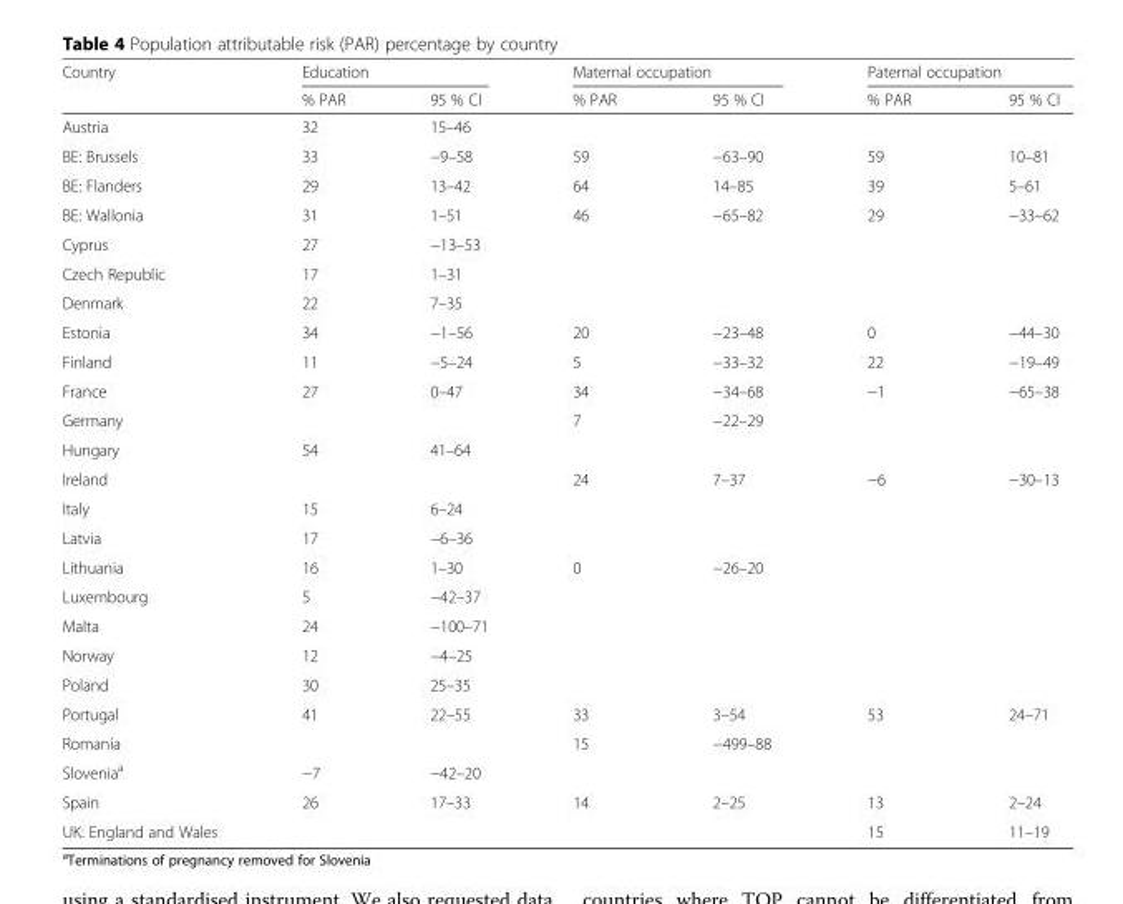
<table><thead><tr><td rowspan="2">Country</td><td colspan="2">Education</td><td colspan="2">Maternal occupation</td><td colspan="2">Paternal occupation</td></tr><tr><td>% PAR</td><td>95 % CI</td><td>% PAR</td><td>95 % CI</td><td>% PAR</td><td>95 % CI</td></tr></thead><tbody><tr><td>Austria</td><td>32</td><td>15–46</td><td></td><td></td><td></td><td></td></tr><tr><td>BE: Brussels</td><td>33</td><td>−9–58</td><td>59</td><td>−63–90</td><td>59</td><td>10–81</td></tr><tr><td>BE: Flanders</td><td>29</td><td>13–42</td><td>64</td><td>14–85</td><td>39</td><td>5–61</td></tr><tr><td>BE: Wallonia</td><td>31</td><td>1–51</td><td>46</td><td>−65–82</td><td>29</td><td>−33–62</td></tr><tr><td>Cyprus</td><td>27</td><td>−13–53</td><td></td><td></td><td></td><td></td></tr><tr><td>Czech Republic</td><td>17</td><td>1–31</td><td></td><td></td><td></td><td></td></tr><tr><td>Denmark</td><td>22</td><td>7–35</td><td></td><td></td><td></td><td></td></tr><tr><td>Estonia</td><td>34</td><td>−1–56</td><td>20</td><td>−23–48</td><td>0</td><td>−44–30</td></tr><tr><td>Finland</td><td>11</td><td>−5–24</td><td>5</td><td>−33–32</td><td>22</td><td>−19–49</td></tr><tr><td>France</td><td>27</td><td>0–47</td><td>34</td><td>−34–68</td><td>−1</td><td>−65–38</td></tr><tr><td>Germany</td><td></td><td></td><td>7</td><td>−22–29</td><td></td><td></td></tr><tr><td>Hungary</td><td>54</td><td>41–64</td><td></td><td></td><td></td><td></td></tr><tr><td>Ireland</td><td></td><td></td><td>24</td><td>7–37</td><td>−6</td><td>−30–13</td></tr><tr><td>Italy</td><td>15</td><td>6–24</td><td></td><td></td><td></td><td></td></tr><tr><td>Latvia</td><td>17</td><td>−6–36</td><td></td><td></td><td></td><td></td></tr><tr><td>Lithuania</td><td>16</td><td>1–30</td><td>0</td><td>−26–20</td><td></td><td></td></tr><tr><td>Luxembourg</td><td>5</td><td>−42–37</td><td></td><td></td><td></td><td></td></tr><tr><td>Malta</td><td>24</td><td>−100–71</td><td></td><td></td><td></td><td></td></tr><tr><td>Norway</td><td>12</td><td>−4–25</td><td></td><td></td><td></td><td></td></tr><tr><td>Poland</td><td>30</td><td>25–35</td><td></td><td></td><td></td><td></td></tr><tr><td>Portugal</td><td>41</td><td>22–55</td><td>33</td><td>3–54</td><td>53</td><td>24–71</td></tr><tr><td>Romania</td><td></td><td></td><td>15</td><td>−499–88</td><td></td><td></td></tr><tr><td>Slovenia<sup>a</sup></td><td>−7</td><td>−42–20</td><td></td><td></td><td></td><td></td></tr><tr><td>Spain</td><td>26</td><td>17–33</td><td>14</td><td>2–25</td><td>13</td><td>2–24</td></tr><tr><td>UK: England and Wales</td><td></td><td></td><td></td><td></td><td>15</td><td>11–19</td></tr></tbody></table>